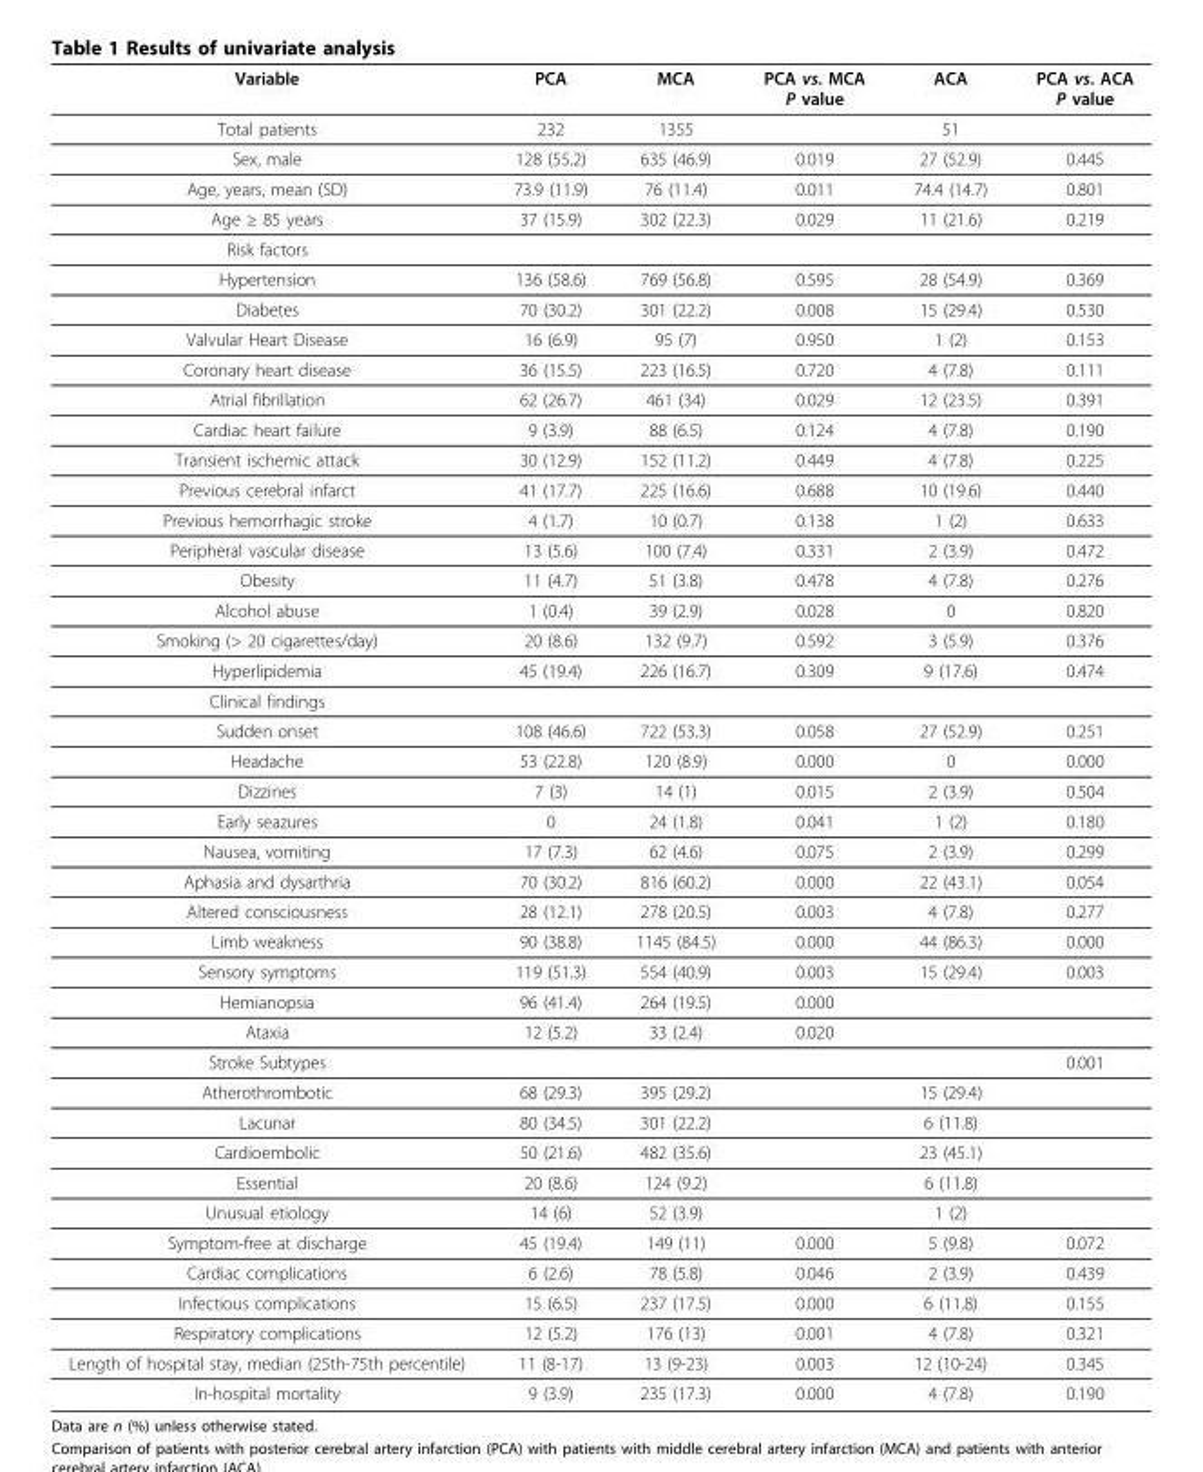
<table><thead><tr><td>Variable</td><td>PCA</td><td>MCA</td><td>PCA vs. MCA P value</td><td>ACA</td><td>PCA vs. ACA P value</td></tr></thead><tbody><tr><td>Total patients</td><td>232</td><td>1355</td><td></td><td>51</td><td></td></tr><tr><td>Sex, male</td><td>128 (55.2)</td><td>635 (46.9)</td><td>0.019</td><td>27 (52.9)</td><td>0.445</td></tr><tr><td>Age, years, mean (SD)</td><td>73.9 (11.9)</td><td>76 (11.4)</td><td>0.011</td><td>74.4 (14.7)</td><td>0.801</td></tr><tr><td>Age ≥ 85 years</td><td>37 (15.9)</td><td>302 (22.3)</td><td>0.029</td><td>11 (21.6)</td><td>0.219</td></tr><tr><td colspan="6">Risk factors</td></tr><tr><td>Hypertension</td><td>136 (58.6)</td><td>769 (56.8)</td><td>0.595</td><td>28 (54.9)</td><td>0.369</td></tr><tr><td>Diabetes</td><td>70 (30.2)</td><td>301 (22.2)</td><td>0.008</td><td>15 (29.4)</td><td>0.530</td></tr><tr><td>Valvular Heart Disease</td><td>16 (6.9)</td><td>95 (7)</td><td>0.950</td><td>1 (2)</td><td>0.153</td></tr><tr><td>Coronary heart disease</td><td>36 (15.5)</td><td>223 (16.5)</td><td>0.720</td><td>4 (7.8)</td><td>0.111</td></tr><tr><td>Atrial fibrillation</td><td>62 (26.7)</td><td>461 (34)</td><td>0.029</td><td>12 (23.5)</td><td>0.391</td></tr><tr><td>Cardiac heart failure</td><td>9 (3.9)</td><td>88 (6.5)</td><td>0.124</td><td>4 (7.8)</td><td>0.190</td></tr><tr><td>Transient ischemic attack</td><td>30 (12.9)</td><td>152 (11.2)</td><td>0.449</td><td>4 (7.8)</td><td>0.225</td></tr><tr><td>Previous cerebral infarct</td><td>41 (17.7)</td><td>225 (16.6)</td><td>0.688</td><td>10 (19.6)</td><td>0.440</td></tr><tr><td>Previous hemorrhagic stroke</td><td>4 (1.7)</td><td>10 (0.7)</td><td>0.138</td><td>1 (2)</td><td>0.633</td></tr><tr><td>Peripheral vascular disease</td><td>13 (5.6)</td><td>100 (7.4)</td><td>0.331</td><td>2 (3.9)</td><td>0.472</td></tr><tr><td>Obesity</td><td>11 (4.7)</td><td>51 (3.8)</td><td>0.478</td><td>4 (7.8)</td><td>0.276</td></tr><tr><td>Alcohol abuse</td><td>1 (0.4)</td><td>39 (2.9)</td><td>0.028</td><td>0</td><td>0.820</td></tr><tr><td>Smoking (&gt; 20 cigarettes/day)</td><td>20 (8.6)</td><td>132 (9.7)</td><td>0.592</td><td>3 (5.9)</td><td>0.376</td></tr><tr><td>Hyperlipidemia</td><td>45 (19.4)</td><td>226 (16.7)</td><td>0.309</td><td>9 (17.6)</td><td>0.474</td></tr><tr><td colspan="6">Clinical findings</td></tr><tr><td>Sudden onset</td><td>108 (46.6)</td><td>722 (53.3)</td><td>0.058</td><td>27 (52.9)</td><td>0.251</td></tr><tr><td>Headache</td><td>53 (22.8)</td><td>120 (8.9)</td><td>0.000</td><td>0</td><td>0.000</td></tr><tr><td>Dizzines</td><td>7 (3)</td><td>14 (1)</td><td>0.015</td><td>2 (3.9)</td><td>0.504</td></tr><tr><td>Early seazures</td><td>0</td><td>24 (1.8)</td><td>0.041</td><td>1 (2)</td><td>0.180</td></tr><tr><td>Nausea, vomiting</td><td>17 (7.3)</td><td>62 (4.6)</td><td>0.075</td><td>2 (3.9)</td><td>0.299</td></tr><tr><td>Aphasia and dysarthria</td><td>70 (30.2)</td><td>816 (60.2)</td><td>0.000</td><td>22 (43.1)</td><td>0.054</td></tr><tr><td>Altered consciousness</td><td>28 (12.1)</td><td>278 (20.5)</td><td>0.003</td><td>4 (7.8)</td><td>0.277</td></tr><tr><td>Limb weakness</td><td>90 (38.8)</td><td>1145 (84.5)</td><td>0.000</td><td>44 (86.3)</td><td>0.000</td></tr><tr><td>Sensory symptoms</td><td>119 (51.3)</td><td>554 (40.9)</td><td>0.003</td><td>15 (29.4)</td><td>0.003</td></tr><tr><td>Hemianopsia</td><td>96 (41.4)</td><td>264 (19.5)</td><td>0.000</td><td></td><td></td></tr><tr><td>Ataxia</td><td>12 (5.2)</td><td>33 (2.4)</td><td>0.020</td><td></td><td></td></tr><tr><td>Stroke Subtypes</td><td></td><td></td><td></td><td></td><td>0.001</td></tr><tr><td>Atherothrombotic</td><td>68 (29.3)</td><td>395 (29.2)</td><td></td><td>15 (29.4)</td><td></td></tr><tr><td>Lacunar</td><td>80 (34.5)</td><td>301 (22.2)</td><td></td><td>6 (11.8)</td><td></td></tr><tr><td>Cardioembolic</td><td>50 (21.6)</td><td>482 (35.6)</td><td></td><td>23 (45.1)</td><td></td></tr><tr><td>Essential</td><td>20 (8.6)</td><td>124 (9.2)</td><td></td><td>6 (11.8)</td><td></td></tr><tr><td>Unusual etiology</td><td>14 (6)</td><td>52 (3.9)</td><td></td><td>1 (2)</td><td></td></tr><tr><td>Symptom-free at discharge</td><td>45 (19.4)</td><td>149 (11)</td><td>0.000</td><td>5 (9.8)</td><td>0.072</td></tr><tr><td>Cardiac complications</td><td>6 (2.6)</td><td>78 (5.8)</td><td>0.046</td><td>2 (3.9)</td><td>0.439</td></tr><tr><td>Infectious complications</td><td>15 (6.5)</td><td>237 (17.5)</td><td>0.000</td><td>6 (11.8)</td><td>0.155</td></tr><tr><td>Respiratory complications</td><td>12 (5.2)</td><td>176 (13)</td><td>0.001</td><td>4 (7.8)</td><td>0.321</td></tr><tr><td>Length of hospital stay, median (25th-75th percentile)</td><td>11 (8-17)</td><td>13 (9-23)</td><td>0.003</td><td>12 (10-24)</td><td>0.345</td></tr><tr><td>In-hospital mortality</td><td>9 (3.9)</td><td>235 (17.3)</td><td>0.000</td><td>4 (7.8)</td><td>0.190</td></tr></tbody></table>